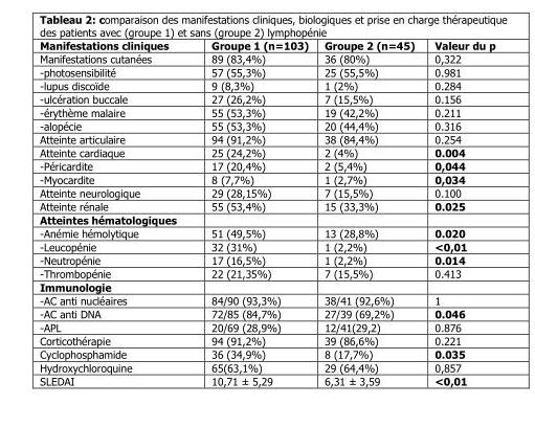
<table><thead><tr><td>Manifestations cliniques</td><td>Groupe 1 (n=103)</td><td>Groupe 2 (n=45)</td><td>Valeur du p</td></tr></thead><tbody><tr><td>Manifestations cutanées</td><td>89 (83,4%)</td><td>36 (80%)</td><td>0,322</td></tr><tr><td>-photosensibilité</td><td>57 (55,3%)</td><td>25 (55,5%)</td><td>0.981</td></tr><tr><td>-lupus discoïde</td><td>9 (8,3%)</td><td>1 (2%)</td><td>0.284</td></tr><tr><td>-ulcération buccale</td><td>27 (26,2%)</td><td>7 (15,5%)</td><td>0.156</td></tr><tr><td>-érythème malaire</td><td>55 (53,3%)</td><td>19 (42,2%)</td><td>0.211</td></tr><tr><td>-alopécie</td><td>55 (53,3%)</td><td>20 (44,4%)</td><td>0.316</td></tr><tr><td>Atteinte articulaire</td><td>94 (91,2%)</td><td>38 (84,4%)</td><td>0.254</td></tr><tr><td>Atteinte cardiaque</td><td>25 (24,2%)</td><td>2 (4%)</td><td>0.004</td></tr><tr><td>-Péricardite</td><td>17 (20,4%)</td><td>2 (5,4%)</td><td>0,044</td></tr><tr><td>-Myocardite</td><td>8 (7,7%)</td><td>1 (2,7%)</td><td>0,034</td></tr><tr><td>Atteinte neurologique</td><td>29 (28,15%)</td><td>7 (15,5%)</td><td>0.100</td></tr><tr><td>Atteinte rénale</td><td>55 (53,4%)</td><td>15 (33,3%)</td><td>0.025</td></tr><tr><td colspan="4">Atteintes hématologiques</td></tr><tr><td>-Anémie hémolytique</td><td>51 (49,5%)</td><td>13 (28,8%)</td><td>0.020</td></tr><tr><td>-Leucopénie</td><td>32 (31%)</td><td>1 (2,2%)</td><td>&lt;0,01</td></tr><tr><td>-Neutropénie</td><td>17 (16,5%)</td><td>1 (2,2%)</td><td>0.014</td></tr><tr><td>-Thrombopénie</td><td>22 (21,35%)</td><td>7 (15,5%)</td><td>0.413</td></tr><tr><td colspan="4">Immunologie</td></tr><tr><td>-AC anti nucléaires</td><td>84/90 (93,3%)</td><td>38/41 (92,6%)</td><td>1</td></tr><tr><td>-AC anti DNA</td><td>72/85 (84,7%)</td><td>27/39 (69,2%)</td><td>0.046</td></tr><tr><td>-APL</td><td>20/69 (28,9%)</td><td>12/41(29,2)</td><td>0.876</td></tr><tr><td>Corticothérapie</td><td>94 (91,2%)</td><td>39 (86,6%)</td><td>0.221</td></tr><tr><td>Cyclophosphamide</td><td>36 (34,9%)</td><td>8 (17,7%)</td><td>0.035</td></tr><tr><td>Hydroxychloroquine</td><td>65(63,1%)</td><td>29 (64,4%)</td><td>0,857</td></tr><tr><td>SLEDAI</td><td>10,71 ± 5,29</td><td>6,31 ± 3,59</td><td>&lt;0,01</td></tr></tbody></table>